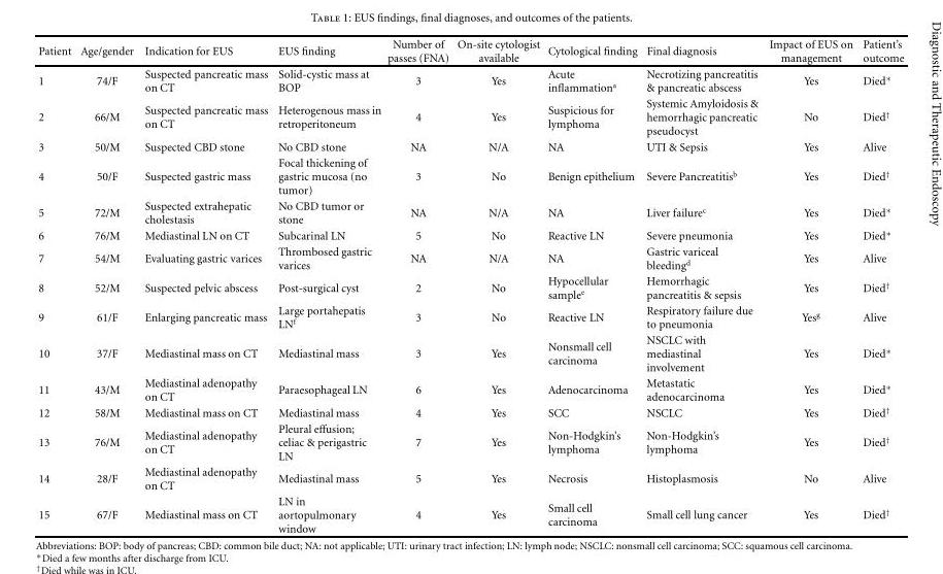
<table><thead><tr><td>Patient</td><td>Age/gender</td><td>Indication for EUS</td><td>EUS finding</td><td>Number of passes (FNA)</td><td>On-site cytologist available</td><td>Cytological finding</td><td>Final diagnosis</td><td>Impact of EUS on management</td><td>Patient’s outcome</td></tr></thead><tbody><tr><td>1</td><td>74/F</td><td>Suspected pancreatic mass on CT</td><td>Solid-cystic mass at BOP</td><td>3</td><td>Yes</td><td>Acute inflammation<sup>a</sup></td><td>Necrotizing pancreatitis &amp; pancreatic abscess</td><td>Yes</td><td>Died∗</td></tr><tr><td>2</td><td>66/M</td><td>Suspected pancreatic mass on CT</td><td>Heterogenous mass in retroperitoneum</td><td>4</td><td>Yes</td><td>Suspicious for lymphoma</td><td>Systemic Amyloidosis &amp; hemorrhagic pancreatic pseudocyst</td><td>No</td><td>Died<sup>†</sup></td></tr><tr><td>3</td><td>50/M</td><td>Suspected CBD stone</td><td>No CBD stone</td><td>NA</td><td>N/A</td><td>NA</td><td>UTI &amp; Sepsis</td><td>Yes</td><td>Alive</td></tr><tr><td>4</td><td>50/F</td><td>Suspected gastric mass</td><td>Focal thickening of gastric mucosa (no tumor)</td><td>3</td><td>No</td><td>Benign epithelium</td><td>Severe Pancreatitis<sup>b</sup></td><td>Yes</td><td>Died<sup>†</sup></td></tr><tr><td>5</td><td>72/M</td><td>Suspected extrahepatic cholestasis</td><td>No CBD tumor or stone</td><td>NA</td><td>N/A</td><td>NA</td><td>Liver failure<sup>c</sup></td><td>Yes</td><td>Died∗</td></tr><tr><td>6</td><td>76/M</td><td>Mediastinal LN on CT</td><td>Subcarinal LN</td><td>5</td><td>No</td><td>Reactive LN</td><td>Severe pneumonia</td><td>Yes</td><td>Died∗</td></tr><tr><td>7</td><td>54/M</td><td>Evaluating gastric varices</td><td>Thrombosed gastric varices</td><td>NA</td><td>N/A</td><td>NA</td><td>Gastric variceal bleeding<sup>d</sup></td><td>Yes</td><td>Alive</td></tr><tr><td>8</td><td>52/M</td><td>Suspected pelvic abscess</td><td>Post-surgical cyst</td><td>2</td><td>No</td><td>Hypocellular sample<sup>e</sup></td><td>Hemorrhagic pancreatitis &amp; sepsis</td><td>Yes</td><td>Died<sup>†</sup></td></tr><tr><td>9</td><td>61/F</td><td>Enlarging pancreatic mass</td><td>Large portahepatis LN<sup>f</sup></td><td>3</td><td>No</td><td>Reactive LN</td><td>Respiratory failure due to pneumonia</td><td>Yes<sup>g</sup></td><td>Alive</td></tr><tr><td>10</td><td>37/F</td><td>Mediastinal mass on CT</td><td>Mediastinal mass</td><td>3</td><td>Yes</td><td>Nonsmall cell carcinoma</td><td>NSCLC with mediastinal involvement</td><td>Yes</td><td>Died∗</td></tr><tr><td>11</td><td>43/M</td><td>Mediastinal adenopathy on CT</td><td>Paraesophageal LN</td><td>6</td><td>Yes</td><td>Adenocarcinoma</td><td>Metastatic adenocarcinoma</td><td>Yes</td><td>Died∗</td></tr><tr><td>12</td><td>58/M</td><td>Mediastinal mass on CT</td><td>Mediastinal mass</td><td>4</td><td>Yes</td><td>SCC</td><td>NSCLC</td><td>Yes</td><td>Died<sup>†</sup></td></tr><tr><td>13</td><td>76/M</td><td>Mediastinal adenopathy on CT</td><td>Pleural effusion; celiac &amp; perigastric LN</td><td>7</td><td>Yes</td><td>Non-Hodgkin’s lymphoma</td><td>Non-Hodgkin’s lymphoma</td><td>Yes</td><td>Died<sup>†</sup></td></tr><tr><td>14</td><td>28/F</td><td>Mediastinal adenopathy on CT</td><td>Mediastinal mass</td><td>5</td><td>Yes</td><td>Necrosis</td><td>Histoplasmosis</td><td>No</td><td>Alive</td></tr><tr><td>15</td><td>67/F</td><td>Mediastinal mass on CT</td><td>LN in aortopulmonary window</td><td>4</td><td>Yes</td><td>Small cell carcinoma</td><td>Small cell lung cancer</td><td>Yes</td><td>Died<sup>†</sup></td></tr></tbody></table>